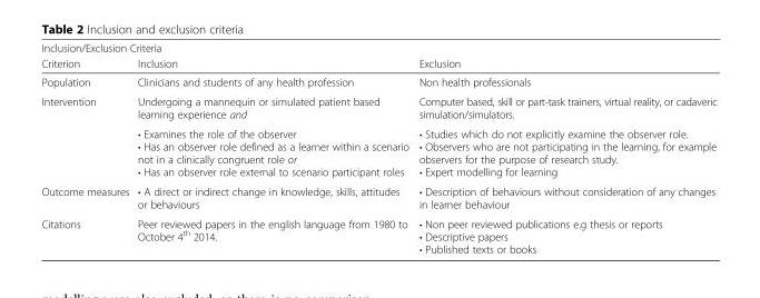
<table><thead><tr><td colspan="3">Inclusion/Exclusion Criteria</td></tr><tr><td>Criterion</td><td>Inclusion</td><td>Exclusion</td></tr></thead><tbody><tr><td>Population</td><td>Clinicians and students of any health profession</td><td>Non health professionals</td></tr><tr><td rowspan="2">Intervention</td><td>Undergoing a mannequin or simulated patient based learning experience and</td><td>Computer based, skill or part-task trainers, virtual reality, or cadaveric simulation/simulators.</td></tr><tr><td>• Examines the role of the observer • Has an observer role defined as a learner within a scenario not in a clinically congruent role or • Has an observer role external to scenario participant roles</td><td>• Studies which do not explicitly examine the observer role. • Observers who are not participating in the learning, for example observers for the purpose of research study. • Expert modelling for learning</td></tr><tr><td>Outcome measures</td><td>• A direct or indirect change in knowledge, skills, attitudes or behaviours</td><td>• Description of behaviours without consideration of any changes in learner behaviour</td></tr><tr><td>Citations</td><td>Peer reviewed papers in the english language from 1980 to October 4<sup>th</sup> 2014.</td><td>• Non peer reviewed publications e.g thesis or reports • Descriptive papers • Published texts or books</td></tr></tbody></table>